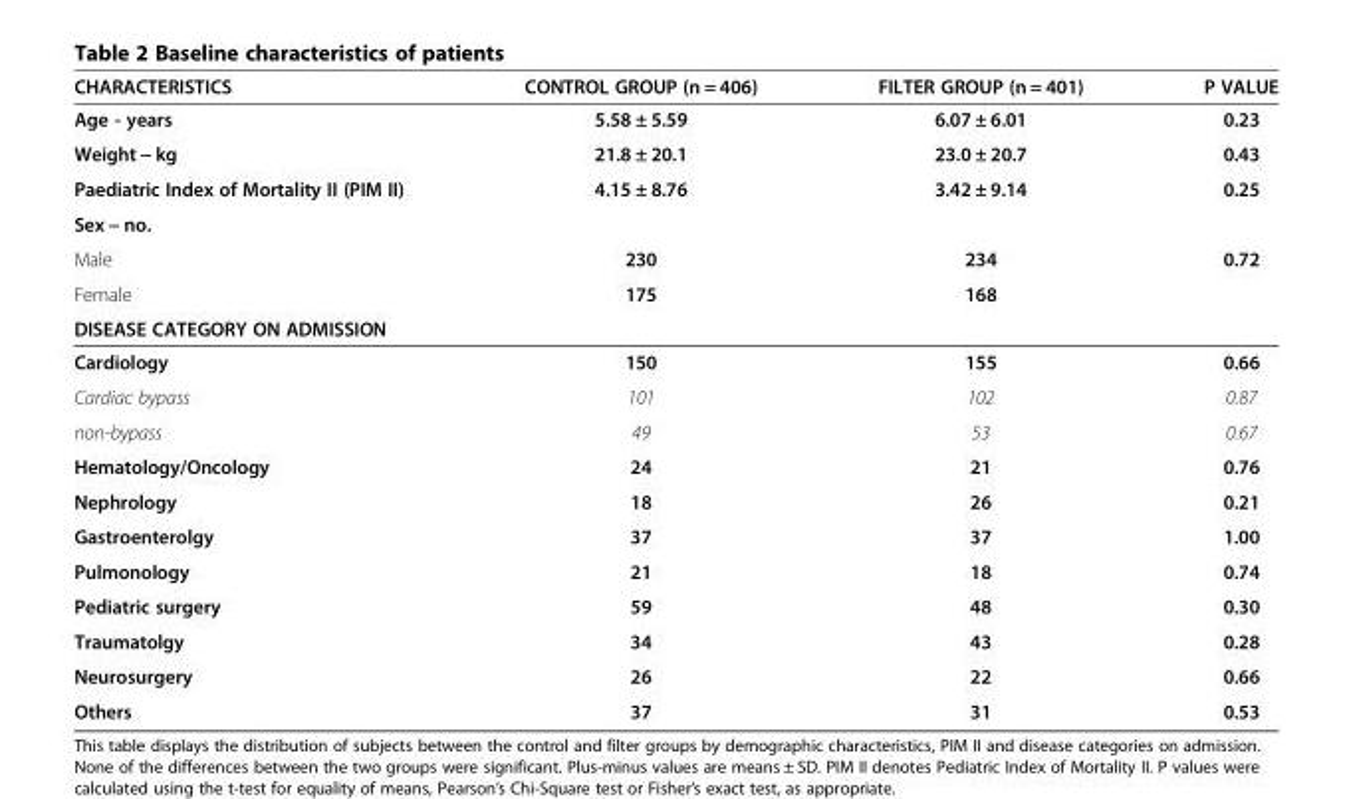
<table><thead><tr><td>CHARACTERISTICS</td><td>CONTROL GROUP (n = 406)</td><td>FILTER GROUP (n = 401)</td><td>P VALUE</td></tr></thead><tbody><tr><td>Age - years</td><td>5.58 ± 5.59</td><td>6.07 ± 6.01</td><td>0.23</td></tr><tr><td>Weight − kg</td><td>21.8 ± 20.1</td><td>23.0 ± 20.7</td><td>0.43</td></tr><tr><td>Paediatric Index of Mortality II (PIM II)</td><td>4.15 ± 8.76</td><td>3.42 ± 9.14</td><td>0.25</td></tr><tr><td colspan="4">Sex − no.</td></tr><tr><td>Male</td><td>230</td><td>234</td><td rowspan="2">0.72</td></tr><tr><td>Female</td><td>175</td><td>168</td></tr><tr><td colspan="4">DISEASE CATEGORY ON ADMISSION</td></tr><tr><td>Cardiology</td><td>150</td><td>155</td><td>0.66</td></tr><tr><td>Cardiac bypass</td><td>101</td><td>102</td><td>0.87</td></tr><tr><td>non-bypass</td><td>49</td><td>53</td><td>0.67</td></tr><tr><td>Hematology/Oncology</td><td>24</td><td>21</td><td>0.76</td></tr><tr><td>Nephrology</td><td>18</td><td>26</td><td>0.21</td></tr><tr><td>Gastroenterolgy</td><td>37</td><td>37</td><td>1.00</td></tr><tr><td>Pulmonology</td><td>21</td><td>18</td><td>0.74</td></tr><tr><td>Pediatric surgery</td><td>59</td><td>48</td><td>0.30</td></tr><tr><td>Traumatolgy</td><td>34</td><td>43</td><td>0.28</td></tr><tr><td>Neurosurgery</td><td>26</td><td>22</td><td>0.66</td></tr><tr><td>Others</td><td>37</td><td>31</td><td>0.53</td></tr></tbody></table>